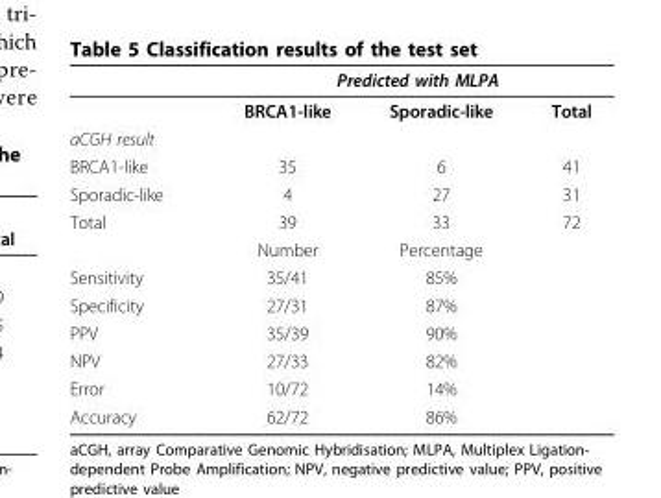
<table><thead><tr><td rowspan="2"></td><td colspan="3">Predicted with MLPA</td></tr><tr><td>BRCA1-like</td><td>Sporadic-like</td><td>Total</td></tr></thead><tbody><tr><td colspan="4">aCGH result</td></tr><tr><td>BRCA1-like</td><td>35</td><td>6</td><td>41</td></tr><tr><td>Sporadic-like</td><td>4</td><td>27</td><td>31</td></tr><tr><td rowspan="2">Total</td><td>39</td><td>33</td><td>72</td></tr><tr><td>Number</td><td>Percentage</td><td></td></tr><tr><td>Sensitivity</td><td>35/41</td><td>85%</td><td></td></tr><tr><td>Specificity</td><td>27/31</td><td>87%</td><td></td></tr><tr><td>PPV</td><td>35/39</td><td>90%</td><td></td></tr><tr><td>NPV</td><td>27/33</td><td>82%</td><td></td></tr><tr><td>Error</td><td>10/72</td><td>14%</td><td></td></tr><tr><td>Accuracy</td><td>62/72</td><td>86%</td><td></td></tr></tbody></table>